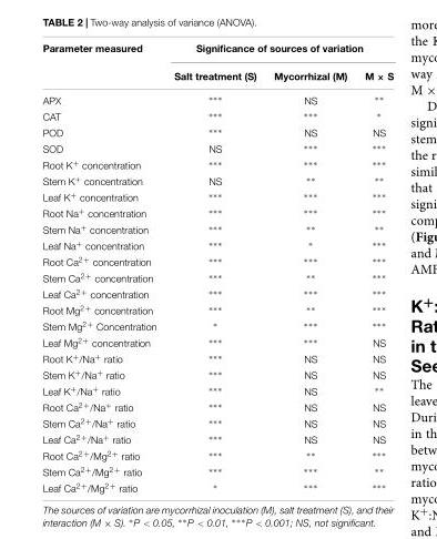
<table><thead><tr><td rowspan="2">Parameter measured</td><td colspan="3">Significance of sources of variation</td></tr><tr><td>Salt treatment (S)</td><td>Mycorrhizal (M)</td><td>M × S</td></tr></thead><tbody><tr><td>APX</td><td>∗∗∗</td><td>NS</td><td>∗∗</td></tr><tr><td>CAT</td><td>∗∗∗</td><td>∗∗∗</td><td>∗</td></tr><tr><td>POD</td><td>∗∗∗</td><td>NS</td><td>NS</td></tr><tr><td>SOD</td><td>NS</td><td>∗∗∗</td><td>∗∗∗</td></tr><tr><td>Root K<sup>+</sup> concentration</td><td>∗∗∗</td><td>∗∗∗</td><td>∗∗∗</td></tr><tr><td>Stem K<sup>+</sup> concentration</td><td>NS</td><td>∗∗</td><td>∗∗</td></tr><tr><td>Leaf K<sup>+</sup> concentration</td><td>∗∗∗</td><td>∗∗∗</td><td>∗∗∗</td></tr><tr><td>Root Na<sup>+</sup> concentration</td><td>∗∗∗</td><td>∗∗∗</td><td>∗∗∗</td></tr><tr><td>Stem Na<sup>+</sup> concentration</td><td>∗∗∗</td><td>∗∗</td><td>∗∗</td></tr><tr><td>Leaf Na<sup>+</sup> concentration</td><td>∗∗∗</td><td>∗</td><td>∗∗∗</td></tr><tr><td>Root Ca<sup>2+</sup> concentration</td><td>∗∗∗</td><td>∗∗∗</td><td>∗∗∗</td></tr><tr><td>Stem Ca<sup>2+</sup> concentration</td><td>∗∗∗</td><td>∗∗</td><td>∗∗∗</td></tr><tr><td>Leaf Ca<sup>2+</sup> concentration</td><td>∗∗∗</td><td>∗∗∗</td><td>∗∗∗</td></tr><tr><td>Root Mg<sup>2+</sup> concentration</td><td>∗∗∗</td><td>∗∗</td><td>∗∗∗</td></tr><tr><td>Stem Mg<sup>2+</sup> Concentration</td><td>∗</td><td>∗∗∗</td><td>∗∗∗</td></tr><tr><td>Leaf Mg<sup>2+</sup> concentration</td><td>∗∗∗</td><td>∗∗∗</td><td>NS</td></tr><tr><td>Root K<sup>+</sup>/Na<sup>+</sup> ratio</td><td>∗∗∗</td><td>NS</td><td>NS</td></tr><tr><td>Stem K<sup>+</sup>/Na<sup>+</sup> ratio</td><td>∗∗∗</td><td>NS</td><td>NS</td></tr><tr><td>Leaf K<sup>+</sup>/Na<sup>+</sup> ratio</td><td>∗∗∗</td><td>NS</td><td>∗∗</td></tr><tr><td>Root Ca<sup>2+</sup>/Na<sup>+</sup> ratio</td><td>∗∗∗</td><td>NS</td><td>NS</td></tr><tr><td>Stem Ca<sup>2+</sup>/Na<sup>+</sup> ratio</td><td>∗∗∗</td><td>NS</td><td>NS</td></tr><tr><td>Leaf Ca<sup>2+</sup>/Na<sup>+</sup> ratio</td><td>∗∗∗</td><td>NS</td><td>NS</td></tr><tr><td>Root Ca<sup>2+</sup>/Mg<sup>2+</sup> ratio</td><td>∗∗∗</td><td>∗∗</td><td>∗∗∗</td></tr><tr><td>Stem Ca<sup>2+</sup>/Mg<sup>2+</sup> ratio</td><td>∗∗∗</td><td>∗∗∗</td><td>∗∗</td></tr><tr><td>Leaf Ca<sup>2+</sup>/Mg<sup>2+</sup> ratio</td><td>∗</td><td>∗∗∗</td><td>∗∗∗</td></tr></tbody></table>